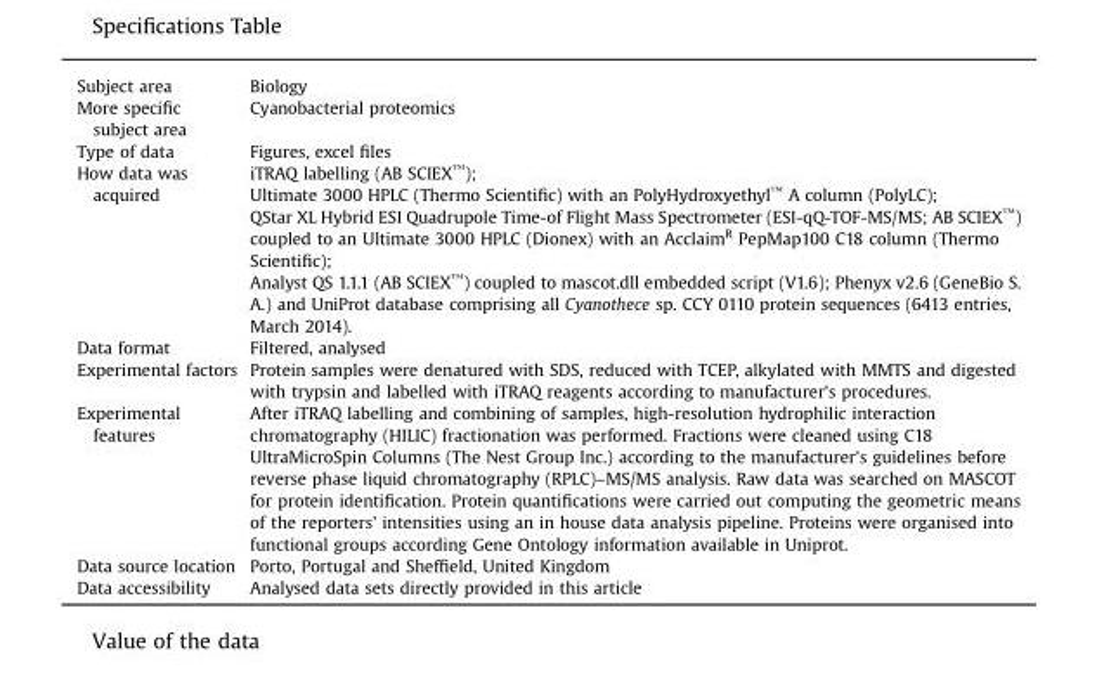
<table><tbody><tr><td>Subject area</td><td>Biology</td></tr><tr><td>More specific subject area</td><td>Cyanobacterial proteomics</td></tr><tr><td>Type of data</td><td>Figures, excel files</td></tr><tr><td rowspan="4">How data was acquired</td><td>iTRAQ labelling (AB SCIEX<sup>™</sup>);</td></tr><tr><td>Ultimate 3000 HPLC (Thermo Scientific) with an PolyHydroxyethyl<sup>™</sup> A column (PolyLC);</td></tr><tr><td>QStar XL Hybrid ESI Quadrupole Time-of Flight Mass Spectrometer (ESI-qQ-TOF-MS/MS; AB SCIEX<sup>™</sup>) coupled to an Ultimate 3000 HPLC (Dionex) with an Acclaim<sup>R</sup> PepMap100 C18 column (Thermo Scientific);</td></tr><tr><td>Analyst QS 1.1.1 (AB SCIEX<sup>™</sup>) coupled to mascot.dll embedded script (V1.6); Phenyx v2.6 (GeneBio S. A.) and UniProt database comprising all Cyanothece sp. CCY 0110 protein sequences (6413 entries, March 2014).</td></tr><tr><td>Data format</td><td>Filtered, analysed</td></tr><tr><td>Experimental factors</td><td>Protein samples were denatured with SDS, reduced with TCEP, alkylated with MMTS and digested with trypsin and labelled with iTRAQ reagents according to manufacturer&#x27;s procedures.</td></tr><tr><td>Experimental features</td><td>After iTRAQ labelling and combining of samples, high-resolution hydrophilic interaction chromatography (HILIC) fractionation was performed. Fractions were cleaned using C18 UltraMicroSpin Columns (The Nest Group Inc.) according to the manufacturer&#x27;s guidelines before reverse phase liquid chromatography (RPLC)–MS/MS analysis. Raw data was searched on MASCOT for protein identification. Protein quantifications were carried out computing the geometric means of the reporters&#x27; intensities using an in house data analysis pipeline. Proteins were organised into functional groups according Gene Ontology information available in Uniprot.</td></tr><tr><td>Data source location</td><td>Porto, Portugal and Sheffield, United Kingdom</td></tr><tr><td>Data accessibility</td><td>Analysed data sets directly provided in this article</td></tr></tbody></table>